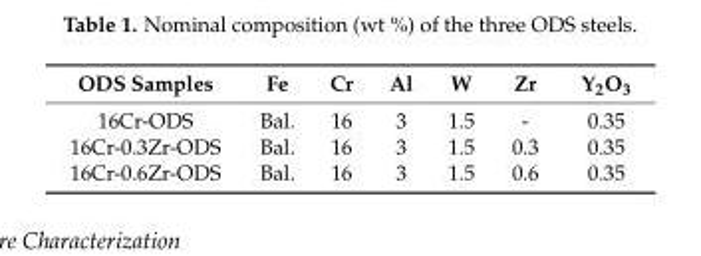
<table><thead><tr><td>ODS Samples</td><td>Fe</td><td>Cr</td><td>Al</td><td>W</td><td>Zr</td><td>Y<sub>2</sub>O<sub>3</sub></td></tr></thead><tbody><tr><td>16Cr-ODS</td><td>Bal.</td><td>16</td><td>3</td><td>1.5</td><td>-</td><td>0.35</td></tr><tr><td>16Cr-0.3Zr-ODS</td><td>Bal.</td><td>16</td><td>3</td><td>1.5</td><td>0.3</td><td>0.35</td></tr><tr><td>16Cr-0.6Zr-ODS</td><td>Bal.</td><td>16</td><td>3</td><td>1.5</td><td>0.6</td><td>0.35</td></tr></tbody></table>